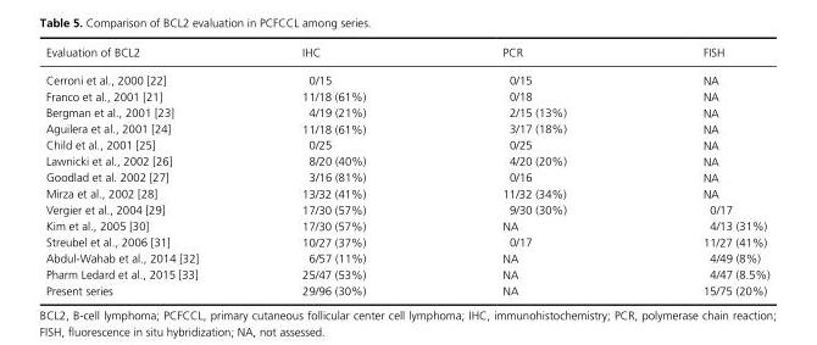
<table><thead><tr><td>Evaluation of BCL2</td><td>IHC</td><td>PCR</td><td>FISH</td></tr></thead><tbody><tr><td>Cerroni et al., 2000 [22]</td><td>0/15</td><td>0/15</td><td>NA</td></tr><tr><td>Franco et al., 2001 [21]</td><td>11/18 (61%)</td><td>0/18</td><td>NA</td></tr><tr><td>Bergman et al., 2001 [23]</td><td>4/19 (21%)</td><td>2/15 (13%)</td><td>NA</td></tr><tr><td>Aguilera et al., 2001 [24]</td><td>11/18 (61%)</td><td>3/17 (18%)</td><td>NA</td></tr><tr><td>Child et al., 2001 [25]</td><td>0/25</td><td>0/25</td><td>NA</td></tr><tr><td>Lawnicki et al., 2002 [26]</td><td>8/20 (40%)</td><td>4/20 (20%)</td><td>NA</td></tr><tr><td>Goodlad et al. 2002 [27]</td><td>3/16 (81%)</td><td>0/16</td><td>NA</td></tr><tr><td>Mirza et al., 2002 [28]</td><td>13/32 (41%)</td><td>11/32 (34%)</td><td>NA</td></tr><tr><td>Vergier et al., 2004 [29]</td><td>17/30 (57%)</td><td>9/30 (30%)</td><td>0/17</td></tr><tr><td>Kim et al., 2005 [30]</td><td>17/30 (57%)</td><td>NA</td><td>4/13 (31%)</td></tr><tr><td>Streubel et al., 2006 [31]</td><td>10/27 (37%)</td><td>0/17</td><td>11/27 (41%)</td></tr><tr><td>Abdul- Wahab et al., 2014 [32]</td><td>6/57 (11%)</td><td>NA</td><td>4/49 (8%)</td></tr><tr><td>Pharm Ledard et al., 2015 [33]</td><td>25/47 (53%)</td><td>NA</td><td>4/47 (8.5%)</td></tr><tr><td>Present series</td><td>29/96 (30%)</td><td>NA</td><td>15/75 (20%)</td></tr></tbody></table>